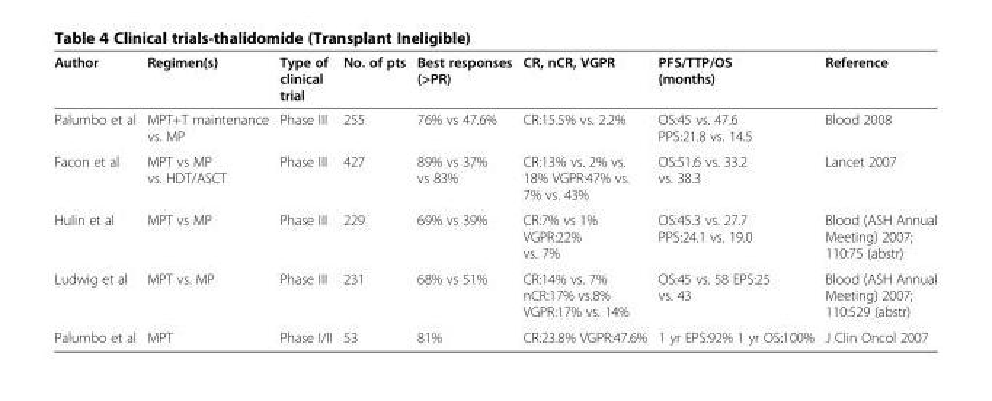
<table><thead><tr><td>Author</td><td>Regimen(s)</td><td>Type of clinical trial</td><td>No. of pts</td><td>Best responses (&gt;PR)</td><td>CR, nCR, VGPR</td><td>PFS/TTP/OS (months)</td><td>Reference</td></tr></thead><tbody><tr><td>Palumbo et al</td><td>MPT+T maintenance vs. MP</td><td>Phase III</td><td>255</td><td>76% vs 47.6%</td><td>CR:15.5% vs. 2.2%</td><td>OS:45 vs. 47.6 PPS:21.8 vs. 14.5</td><td>Blood 2008</td></tr><tr><td>Facon et al</td><td>MPT vs MP vs. HDT/ASCT</td><td>Phase III</td><td>427</td><td>89% vs 37% vs 83%</td><td>CR:13% vs. 2% vs. 18% VGPR:47% vs. 7% vs. 43%</td><td>OS:51.6 vs. 33.2 vs. 38.3</td><td>Lancet 2007</td></tr><tr><td>Hulin et al</td><td>MPT vs MP</td><td>Phase III</td><td>229</td><td>69% vs 39%</td><td>CR:7% vs 1% VGPR:22% vs. 7%</td><td>OS:45.3 vs. 27.7 PPS:24.1 vs. 19.0</td><td>Blood (ASH Annual Meeting) 2007; 110:75 (abstr)</td></tr><tr><td>Ludwig et al</td><td>MPT vs. MP</td><td>Phase III</td><td>231</td><td>68% vs 51%</td><td>CR:14% vs. 7% nCR:17% vs.8% VGPR:17% vs. 14%</td><td>OS:45 vs. 58 EPS:25 vs. 43</td><td>Blood (ASH Annual Meeting) 2007; 110:529 (abstr)</td></tr><tr><td>Palumbo et al</td><td>MPT</td><td>Phase I/II</td><td>53</td><td>81%</td><td>CR:23.8% VGPR:47.6%</td><td>1 yr EPS:92% 1 yr OS:100%</td><td>J Clin Oncol 2007</td></tr></tbody></table>